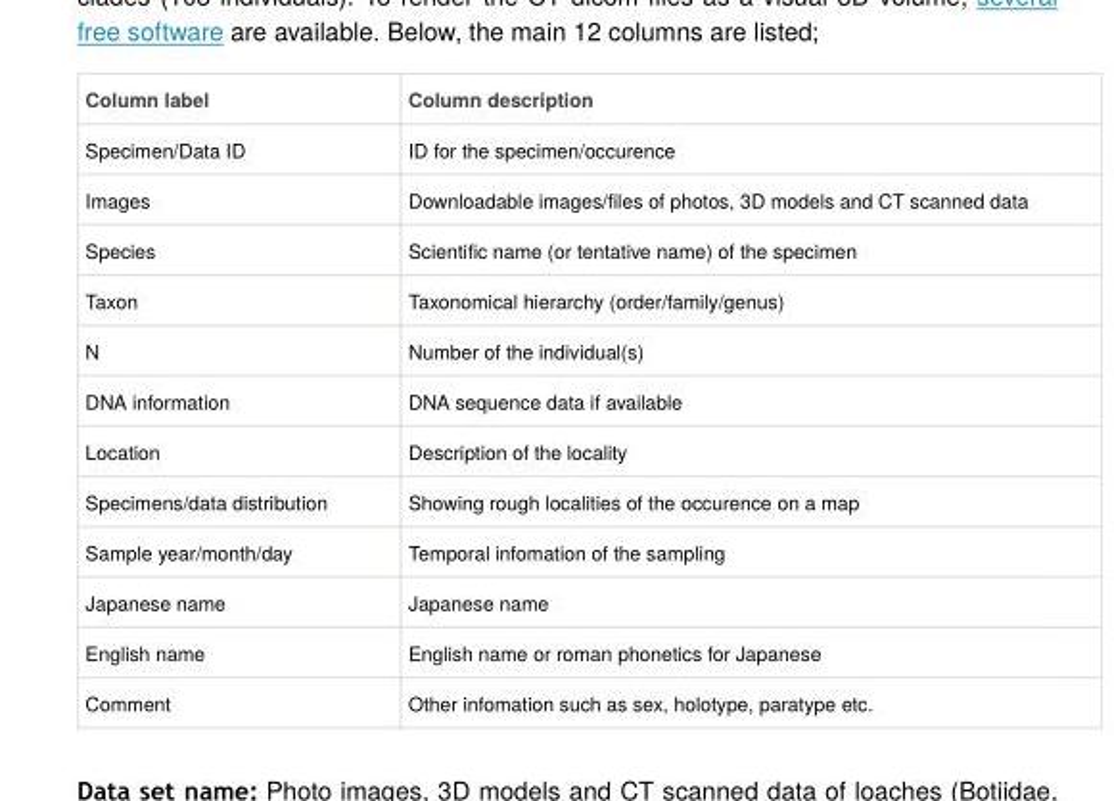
<table><thead><tr><td>Column label</td><td>Column description</td></tr></thead><tbody><tr><td>Specimen/Data ID</td><td>ID for the specimen/occurence</td></tr><tr><td>Images</td><td>Downloadable images/files of photos, 3D models and CT scanned data</td></tr><tr><td>Species</td><td>Scientific name (or tentative name) of the specimen</td></tr><tr><td>Taxon</td><td>Taxonomical hierarchy (order/family/genus)</td></tr><tr><td>N</td><td>Number of the individual(s)</td></tr><tr><td>DNA information</td><td>DNA sequence data if available</td></tr><tr><td>Location</td><td>Description of the locality</td></tr><tr><td>Specimens/data distribution</td><td>Showing rough localities of the occurence on a map</td></tr><tr><td>Sample year/month/day</td><td>Temporal infomation of the sampling</td></tr><tr><td>Japanese name</td><td>Japanese name</td></tr><tr><td>English name</td><td>English name or roman phonetics for Japanese</td></tr><tr><td>Comment</td><td>Other infomation such as sex, holotype, paratype etc.</td></tr></tbody></table>